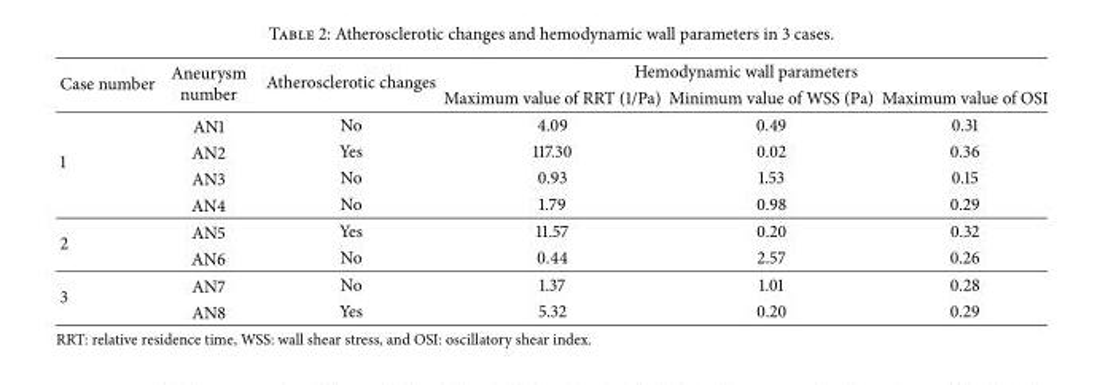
<table><thead><tr><td rowspan="2">Case number</td><td rowspan="2">Aneurysm number</td><td rowspan="2">Atherosclerotic changes</td><td colspan="3">Hemodynamic wall parameters</td></tr><tr><td>Maximum value of RRT (1/Pa)</td><td>Minimum value of WSS (Pa)</td><td>Maximum value of OSI</td></tr></thead><tbody><tr><td rowspan="4">1</td><td>AN1</td><td>No</td><td>4.09</td><td>0.49</td><td>0.31</td></tr><tr><td>AN2</td><td>Yes</td><td>117.30</td><td>0.02</td><td>0.36</td></tr><tr><td>AN3</td><td>No</td><td>0.93</td><td>1.53</td><td>0.15</td></tr><tr><td>AN4</td><td>No</td><td>1.79</td><td>0.98</td><td>0.29</td></tr><tr><td rowspan="2">2</td><td>AN5</td><td>Yes</td><td>11.57</td><td>0.20</td><td>0.32</td></tr><tr><td>AN6</td><td>No</td><td>0.44</td><td>2.57</td><td>0.26</td></tr><tr><td rowspan="2">3</td><td>AN7</td><td>No</td><td>1.37</td><td>1.01</td><td>0.28</td></tr><tr><td>AN8</td><td>Yes</td><td>5.32</td><td>0.20</td><td>0.29</td></tr></tbody></table>